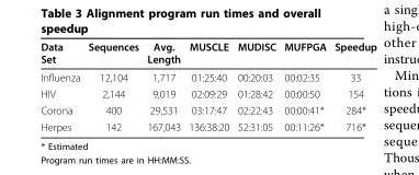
<table><thead><tr><td>Data Set</td><td>Sequences</td><td>Avg. Length</td><td>MUSCLE</td><td>MUDISC</td><td>MUFPGA</td><td>Speedup</td></tr></thead><tbody><tr><td>Influenza</td><td>12,104</td><td>1,717</td><td>01:25:40</td><td>00:20:03</td><td>00:02:35</td><td>33</td></tr><tr><td>HIV</td><td>2,144</td><td>9,019</td><td>02:09:29</td><td>01:28:42</td><td>00:00:50</td><td>154</td></tr><tr><td>Corona</td><td>400</td><td>29,531</td><td>03:17:47</td><td>02:22:43</td><td>00:00:41*</td><td>284*</td></tr><tr><td>Herpes</td><td>142</td><td>167,043</td><td>136:38:20</td><td>52:31:05</td><td>00:11:26*</td><td>716*</td></tr></tbody></table>